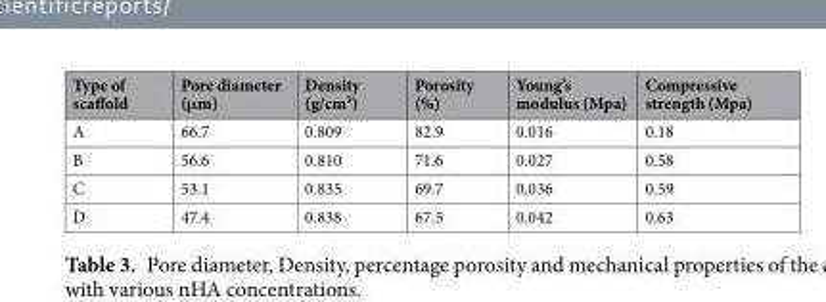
<table><thead><tr><td>Type of scaffold</td><td>Pore diameter (μm)</td><td>Density (g/cm<sup>3</sup>)</td><td>Porosity (%)</td><td>Young’s modulus (Mpa)</td><td>Compressive strength (Mpa)</td></tr></thead><tbody><tr><td>A</td><td>66.7</td><td>0.809</td><td>82.9</td><td>0.016</td><td>0.18</td></tr><tr><td>B</td><td>56.6</td><td>0.810</td><td>71.6</td><td>0.027</td><td>0.58</td></tr><tr><td>C</td><td>53.1</td><td>0.835</td><td>69.7</td><td>0.036</td><td>0.59</td></tr><tr><td>D</td><td>47.4</td><td>0.838</td><td>67.5</td><td>0.042</td><td>0.63</td></tr></tbody></table>